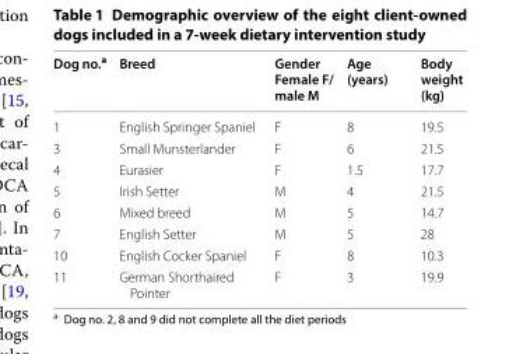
<table><thead><tr><td>Dog no.<sup>a</sup></td><td>Breed</td><td>Gender Female F/ male M</td><td>Age (years)</td><td>Body weight (kg)</td></tr></thead><tbody><tr><td>1</td><td>English Springer Spaniel</td><td>F</td><td>8</td><td>19.5</td></tr><tr><td>3</td><td>Small Munsterlander</td><td>F</td><td>6</td><td>21.5</td></tr><tr><td>4</td><td>Eurasier</td><td>F</td><td>1.5</td><td>17.7</td></tr><tr><td>5</td><td>Irish Setter</td><td>M</td><td>4</td><td>21.5</td></tr><tr><td>6</td><td>Mixed breed</td><td>M</td><td>5</td><td>14.7</td></tr><tr><td>7</td><td>English Setter</td><td>M</td><td>5</td><td>28</td></tr><tr><td>10</td><td>English Cocker Spaniel</td><td>F</td><td>8</td><td>10.3</td></tr><tr><td>11</td><td>German Shorthaired Pointer</td><td>F</td><td>3</td><td>19.9</td></tr></tbody></table>